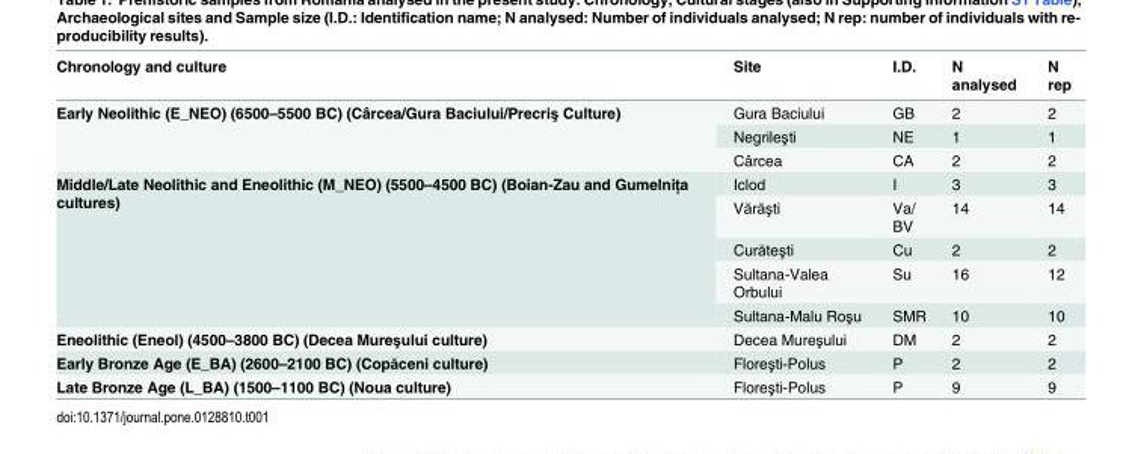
<table><thead><tr><td>Chronology and culture</td><td>Site</td><td>I.D.</td><td>N analysed</td><td>N rep</td></tr></thead><tbody><tr><td rowspan="3">Early Neolithic (E_NEO) (6500–5500 BC) (Cârcea/Gura Baciului/Precriş Culture)</td><td>Gura Baciului</td><td>GB</td><td>2</td><td>2</td></tr><tr><td>Negrileşti</td><td>NE</td><td>1</td><td>1</td></tr><tr><td>Cârcea</td><td>CA</td><td>2</td><td>2</td></tr><tr><td rowspan="5">Middle/Late Neolithic and Eneolithic (M_NEO) (5500–4500 BC) (Boian-Zau and Gumelniţa cultures)</td><td>Iclod</td><td>I</td><td>3</td><td>3</td></tr><tr><td>Vărăşti</td><td>Va/ BV</td><td>14</td><td>14</td></tr><tr><td>Curăteşti</td><td>Cu</td><td>2</td><td>2</td></tr><tr><td>Sultana-Valea Orbului</td><td>Su</td><td>16</td><td>12</td></tr><tr><td>Sultana-Malu Roşu</td><td>SMR</td><td>10</td><td>10</td></tr><tr><td>Eneolithic (Eneol) (4500–3800 BC) (Decea Mureşului culture)</td><td>Decea Mureşului</td><td>DM</td><td>2</td><td>2</td></tr><tr><td>Early Bronze Age (E_BA) (2600–2100 BC) (Copăceni culture)</td><td>Floreşti-Polus</td><td>P</td><td>2</td><td>2</td></tr><tr><td>Late Bronze Age (L_BA) (1500–1100 BC) (Noua culture)</td><td>Floreşti-Polus</td><td>P</td><td>9</td><td>9</td></tr></tbody></table>